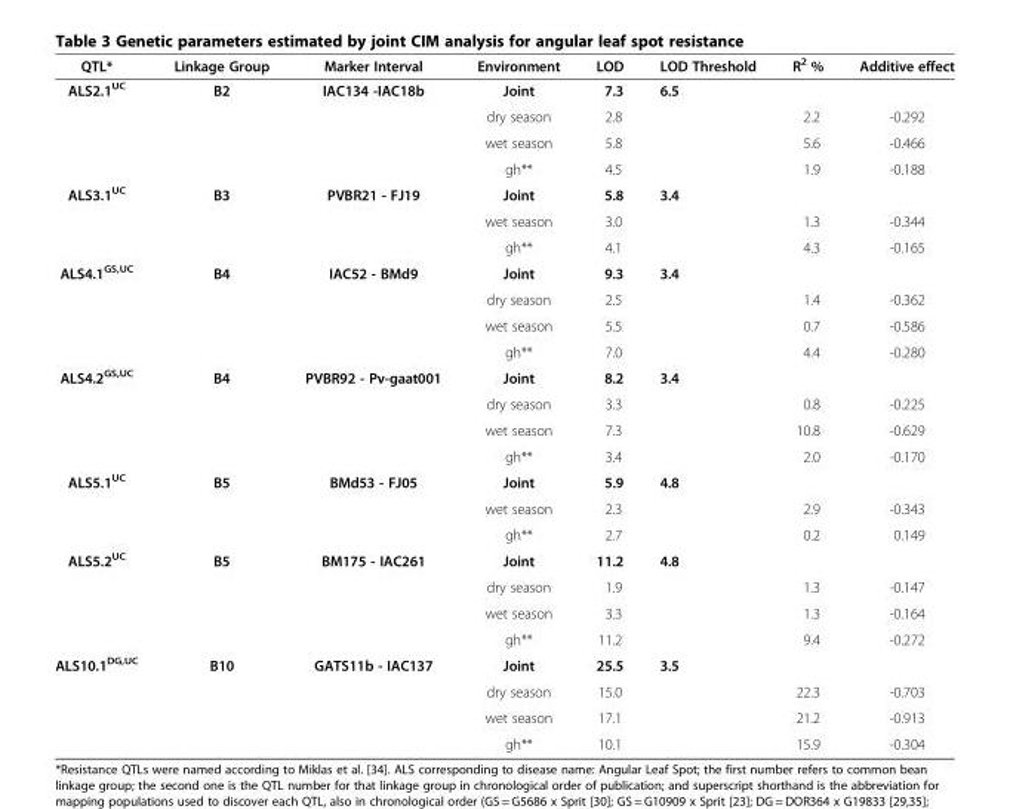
<table><thead><tr><td>QTL*</td><td>Linkage Group</td><td>Marker Interval</td><td>Environment</td><td>LOD</td><td>LOD Threshold</td><td>R<sup>2</sup> %</td><td>Additive effect</td></tr></thead><tbody><tr><td rowspan="4">ALS2.1<sup>UC</sup></td><td>B2</td><td>IAC134 -IAC18b</td><td>Joint</td><td>7.3</td><td>6.5</td><td></td><td></td></tr><tr><td></td><td></td><td>dry season</td><td>2.8</td><td></td><td>2.2</td><td>-0.292</td></tr><tr><td></td><td></td><td>wet season</td><td>5.8</td><td></td><td>5.6</td><td>-0.466</td></tr><tr><td></td><td></td><td>gh**</td><td>4.5</td><td></td><td>1.9</td><td>-0.188</td></tr><tr><td rowspan="3">ALS3.1<sup>UC</sup></td><td>B3</td><td>PVBR21 - FJ19</td><td>Joint</td><td>5.8</td><td>3.4</td><td></td><td></td></tr><tr><td></td><td></td><td>wet season</td><td>3.0</td><td></td><td>1.3</td><td>-0.344</td></tr><tr><td></td><td></td><td>gh**</td><td>4.1</td><td></td><td>4.3</td><td>-0.165</td></tr><tr><td rowspan="4">ALS4.1<sup>GS,UC</sup></td><td>B4</td><td>IAC52 - BMd9</td><td>Joint</td><td>9.3</td><td>3.4</td><td></td><td></td></tr><tr><td></td><td></td><td>dry season</td><td>2.5</td><td></td><td>1.4</td><td>-0.362</td></tr><tr><td></td><td></td><td>wet season</td><td>5.5</td><td></td><td>0.7</td><td>-0.586</td></tr><tr><td></td><td></td><td>gh**</td><td>7.0</td><td></td><td>4.4</td><td>-0.280</td></tr><tr><td rowspan="4">ALS4.2<sup>GS,UC</sup></td><td>B4</td><td>PVBR92 - Pv-gaat001</td><td>Joint</td><td>8.2</td><td>3.4</td><td></td><td></td></tr><tr><td></td><td></td><td>dry season</td><td>3.3</td><td></td><td>0.8</td><td>-0.225</td></tr><tr><td></td><td></td><td>wet season</td><td>7.3</td><td></td><td>10.8</td><td>-0.629</td></tr><tr><td></td><td></td><td>gh**</td><td>3.4</td><td></td><td>2.0</td><td>-0.170</td></tr><tr><td rowspan="3">ALS5.1<sup>UC</sup></td><td>B5</td><td>BMd53 - FJ05</td><td>Joint</td><td>5.9</td><td>4.8</td><td></td><td></td></tr><tr><td></td><td></td><td>wet season</td><td>2.3</td><td></td><td>2.9</td><td>-0.343</td></tr><tr><td></td><td></td><td>gh**</td><td>2.7</td><td></td><td>0.2</td><td>0.149</td></tr><tr><td rowspan="4">ALS5.2<sup>UC</sup></td><td>B5</td><td>BM175 - IAC261</td><td>Joint</td><td>11.2</td><td>4.8</td><td></td><td></td></tr><tr><td></td><td></td><td>dry season</td><td>1.9</td><td></td><td>1.3</td><td>-0.147</td></tr><tr><td></td><td></td><td>wet season</td><td>3.3</td><td></td><td>1.3</td><td>-0.164</td></tr><tr><td></td><td></td><td>gh**</td><td>11.2</td><td></td><td>9.4</td><td>-0.272</td></tr><tr><td rowspan="4">ALS10.1<sup>DG,UC</sup></td><td>B10</td><td>GATS11b - IAC137</td><td>Joint</td><td>25.5</td><td>3.5</td><td></td><td></td></tr><tr><td></td><td></td><td>dry season</td><td>15.0</td><td></td><td>22.3</td><td>-0.703</td></tr><tr><td></td><td></td><td>wet season</td><td>17.1</td><td></td><td>21.2</td><td>-0.913</td></tr><tr><td></td><td></td><td>gh**</td><td>10.1</td><td></td><td>15.9</td><td>-0.304</td></tr></tbody></table>